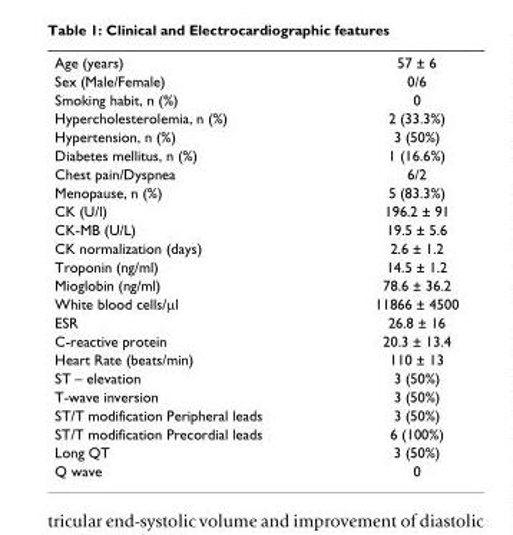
<table><tbody><tr><td>Age (years)</td><td>57 ± 6</td></tr><tr><td>Sex (Male/Female)</td><td>0/6</td></tr><tr><td>Smoking habit, n (%)</td><td>0</td></tr><tr><td>Hypercholesterolemia, n (%)</td><td>2 (33.3%)</td></tr><tr><td>Hypertension, n (%)</td><td>3 (50%)</td></tr><tr><td>Diabetes mellitus, n (%)</td><td>1 (16.6%)</td></tr><tr><td>Chest pain/Dyspnea</td><td>6/2</td></tr><tr><td>Menopause, n (%)</td><td>5 (83.3%)</td></tr><tr><td>CK (U/l)</td><td>196.2 ± 91</td></tr><tr><td>CK-MB (U/L)</td><td>19.5 ± 5.6</td></tr><tr><td>CK normalization (days)</td><td>2.6 ± 1.2</td></tr><tr><td>Troponin (ng/ml)</td><td>14.5 ± 1.2</td></tr><tr><td>Mioglobin (ng/ml)</td><td>78.6 ± 36.2</td></tr><tr><td>White blood cells/μl</td><td>11866 ± 4500</td></tr><tr><td>ESR</td><td>26.8 ± 16</td></tr><tr><td>C-reactive protein</td><td>20.3 ± 13.4</td></tr><tr><td>Heart Rate (beats/min)</td><td>110 ± 13</td></tr><tr><td>ST – elevation</td><td>3 (50%)</td></tr><tr><td>T-wave inversion</td><td>3 (50%)</td></tr><tr><td>ST/T modification Peripheral leads</td><td>3 (50%)</td></tr><tr><td>ST/T modification Precordial leads</td><td>6 (100%)</td></tr><tr><td>Long QT</td><td>3 (50%)</td></tr><tr><td>Q wave</td><td>0</td></tr></tbody></table>